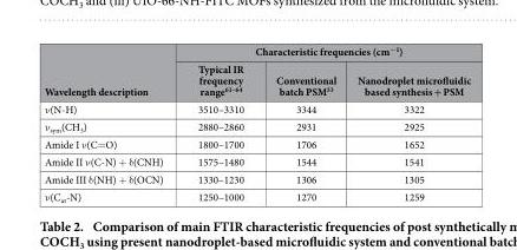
<table><thead><tr><td rowspan="2">Wavelength description</td><td colspan="3">Characteristic frequencies (cm<sup>−1</sup>)</td></tr><tr><td>Typical IR frequency range61–64</td><td>Conventional batch PSM<sup>33</sup></td><td>Nanodroplet microfluidic based synthesis + PSM</td></tr></thead><tbody><tr><td>ν (N-H)</td><td>3510–3310</td><td>3344</td><td>3322</td></tr><tr><td>ν <sub>sym</sub>(CH<sub>3</sub>)</td><td>2880–2860</td><td>2931</td><td>2925</td></tr><tr><td>Amide I ν (C= O)</td><td>1800–1700</td><td>1706</td><td>1652</td></tr><tr><td>Amide II ν (C-N) + δ (CNH)</td><td>1575–1480</td><td>1544</td><td>1541</td></tr><tr><td>Amide III δ (NH) + δ (OCN)</td><td>1330–1230</td><td>1306</td><td>1305</td></tr><tr><td>ν (C<sub>ar</sub>-N)</td><td>1250–1000</td><td>1270</td><td>1259</td></tr></tbody></table>